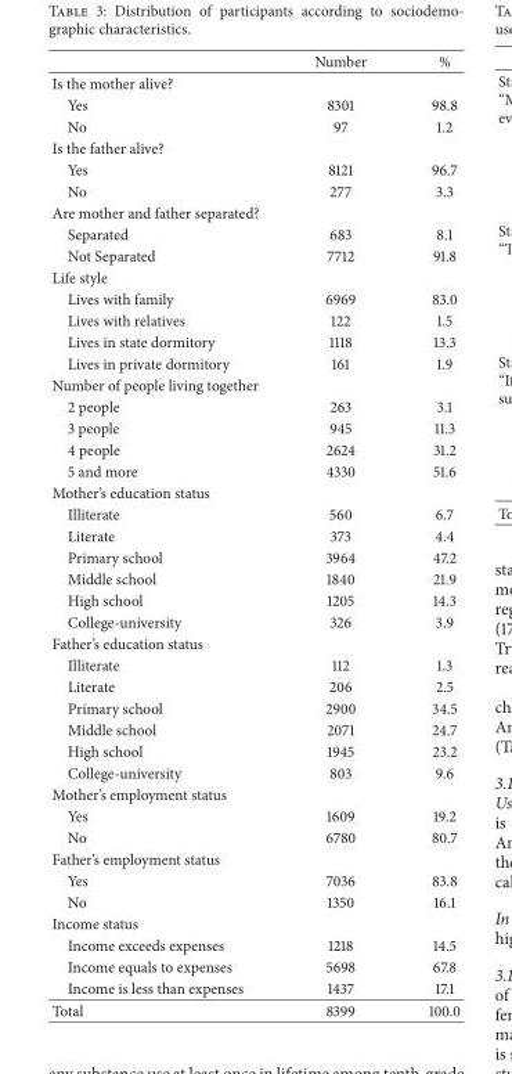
<table><thead><tr><td></td><td>Number</td><td>%</td></tr></thead><tbody><tr><td colspan="3">Is the mother alive?</td></tr><tr><td>Yes</td><td>8301</td><td>98.8</td></tr><tr><td>No</td><td>97</td><td>1.2</td></tr><tr><td colspan="3">Is the father alive?</td></tr><tr><td>Yes</td><td>8121</td><td>96.7</td></tr><tr><td>No</td><td>277</td><td>3.3</td></tr><tr><td colspan="3">Are mother and father separated?</td></tr><tr><td>Separated</td><td>683</td><td>8.1</td></tr><tr><td>Not Separated</td><td>7712</td><td>91.8</td></tr><tr><td colspan="3">Life style</td></tr><tr><td>Lives with family</td><td>6969</td><td>83.0</td></tr><tr><td>Lives with relatives</td><td>122</td><td>1.5</td></tr><tr><td>Lives in state dormitory</td><td>1118</td><td>13.3</td></tr><tr><td>Lives in private dormitory</td><td>161</td><td>1.9</td></tr><tr><td colspan="3">Number of people living together</td></tr><tr><td>2 people</td><td>263</td><td>3.1</td></tr><tr><td>3 people</td><td>945</td><td>11.3</td></tr><tr><td>4 people</td><td>2624</td><td>31.2</td></tr><tr><td>5 and more</td><td>4330</td><td>51.6</td></tr><tr><td colspan="3">Mother’s education status</td></tr><tr><td>Illiterate</td><td>560</td><td>6.7</td></tr><tr><td>Literate</td><td>373</td><td>4.4</td></tr><tr><td>Primary school</td><td>3964</td><td>47.2</td></tr><tr><td>Middle school</td><td>1840</td><td>21.9</td></tr><tr><td>High school</td><td>1205</td><td>14.3</td></tr><tr><td>College-university</td><td>326</td><td>3.9</td></tr><tr><td colspan="3">Father’s education status</td></tr><tr><td>Illiterate</td><td>112</td><td>1.3</td></tr><tr><td>Literate</td><td>206</td><td>2.5</td></tr><tr><td>Primary school</td><td>2900</td><td>34.5</td></tr><tr><td>Middle school</td><td>2071</td><td>24.7</td></tr><tr><td>High school</td><td>1945</td><td>23.2</td></tr><tr><td>College-university</td><td>803</td><td>9.6</td></tr><tr><td colspan="3">Mother’s employment status</td></tr><tr><td>Yes</td><td>1609</td><td>19.2</td></tr><tr><td>No</td><td>6780</td><td>80.7</td></tr><tr><td colspan="3">Father’s employment status</td></tr><tr><td>Yes</td><td>7036</td><td>83.8</td></tr><tr><td>No</td><td>1350</td><td>16.1</td></tr><tr><td colspan="3">Income status</td></tr><tr><td>Income exceeds expenses</td><td>1218</td><td>14.5</td></tr><tr><td>Income equals to expenses</td><td>5698</td><td>67.8</td></tr><tr><td>Income is less than expenses</td><td>1437</td><td>17.1</td></tr><tr><td>Total</td><td>8399</td><td>100.0</td></tr></tbody></table>